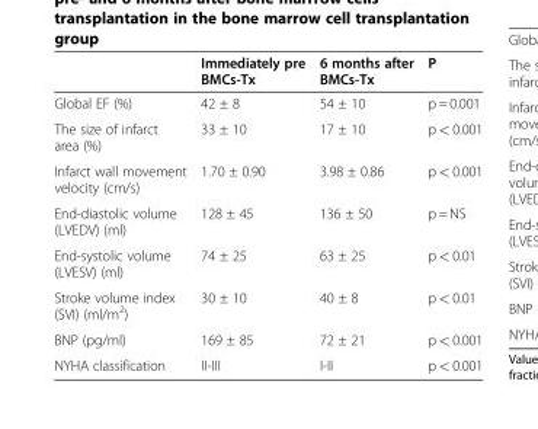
<table><thead><tr><td></td><td>Immediately pre BMCs-Tx</td><td>6 months after BMCs-Tx</td><td>P</td></tr></thead><tbody><tr><td>Global EF (%)</td><td>42 ± 8</td><td>54 ± 10</td><td>p = 0.001</td></tr><tr><td>The size of infarct area (%)</td><td>33 ± 10</td><td>17 ± 10</td><td>p &lt; 0.001</td></tr><tr><td>Infarct wall movement velocity (cm/s)</td><td>1.70 ± 0.90</td><td>3.98 ± 0.86</td><td>p &lt; 0.001</td></tr><tr><td>End-diastolic volume (LVEDV) (ml)</td><td>128 ± 45</td><td>136 ± 50</td><td>p = NS</td></tr><tr><td>End-systolic volume (LVESV) (ml)</td><td>74 ± 25</td><td>63 ± 25</td><td>p &lt; 0.01</td></tr><tr><td>Stroke volume index (SVI) (ml/m<sup>2</sup>)</td><td>30 ± 10</td><td>40 ± 8</td><td>p &lt; 0.01</td></tr><tr><td>BNP (pg/ml)</td><td>169 ± 85</td><td>72 ± 21</td><td>p &lt; 0.001</td></tr><tr><td>NYHA classification</td><td>II-III</td><td>I-II</td><td>p &lt; 0.001</td></tr></tbody></table>